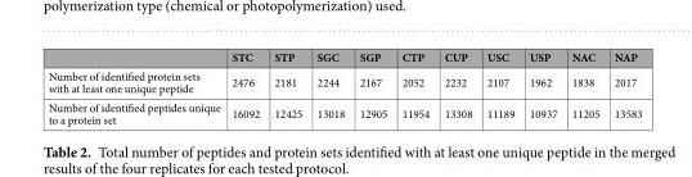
<table><thead><tr><td></td><td>STC</td><td>STP</td><td>SGC</td><td>SGP</td><td>CTP</td><td>CUP</td><td>USC</td><td>USP</td><td>NAC</td><td>NAP</td></tr></thead><tbody><tr><td>Number of identified protein sets with at least one unique peptide</td><td>2476</td><td>2181</td><td>2244</td><td>2167</td><td>2052</td><td>2232</td><td>2107</td><td>1962</td><td>1838</td><td>2017</td></tr><tr><td>Number of identified peptides unique to a protein set</td><td>16092</td><td>12425</td><td>13018</td><td>12905</td><td>11954</td><td>13308</td><td>11189</td><td>10937</td><td>11205</td><td>13583</td></tr></tbody></table>